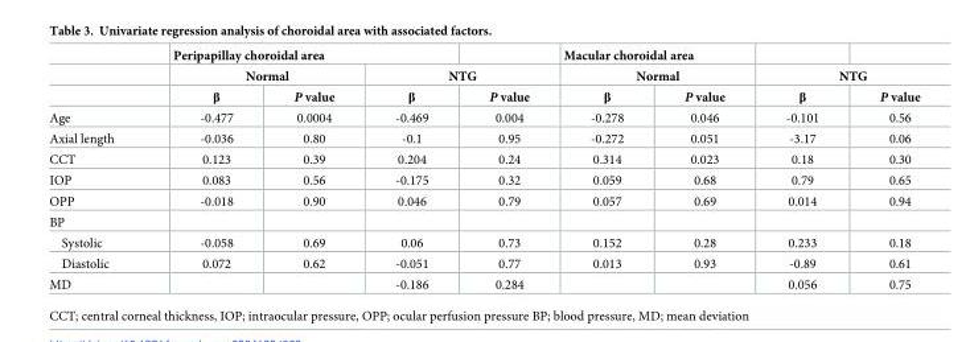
<table><thead><tr><td rowspan="3"></td><td colspan="3">Peripapillay choroidal area</td><td></td><td rowspan="2" colspan="2">Macular choroidal area Normal</td><td></td><td></td></tr><tr><td colspan="2">Normal</td><td colspan="2">NTG</td><td colspan="2">NTG</td></tr><tr><td>β</td><td>P value</td><td>β</td><td>P value</td><td>β</td><td>P value</td><td>β</td><td>P value</td></tr></thead><tbody><tr><td>Age</td><td>-0.477</td><td>0.0004</td><td>-0.469</td><td>0.004</td><td>-0.278</td><td>0.046</td><td>-0.101</td><td>0.56</td></tr><tr><td>Axial length</td><td>-0.036</td><td>0.80</td><td>-0.1</td><td>0.95</td><td>-0.272</td><td>0.051</td><td>-3.17</td><td>0.06</td></tr><tr><td>CCT</td><td>0.123</td><td>0.39</td><td>0.204</td><td>0.24</td><td>0.314</td><td>0.023</td><td>0.18</td><td>0.30</td></tr><tr><td>IOP</td><td>0.083</td><td>0.56</td><td>-0.175</td><td>0.32</td><td>0.059</td><td>0.68</td><td>0.79</td><td>0.65</td></tr><tr><td>OPP</td><td>-0.018</td><td>0.90</td><td>0.046</td><td>0.79</td><td>0.057</td><td>0.69</td><td>0.014</td><td>0.94</td></tr><tr><td colspan="9">BP</td></tr><tr><td>Systolic</td><td>-0.058</td><td>0.69</td><td>0.06</td><td>0.73</td><td>0.152</td><td>0.28</td><td>0.233</td><td>0.18</td></tr><tr><td>Diastolic</td><td>0.072</td><td>0.62</td><td>-0.051</td><td>0.77</td><td>0.013</td><td>0.93</td><td>-0.89</td><td>0.61</td></tr><tr><td>MD</td><td></td><td></td><td>-0.186</td><td>0.284</td><td></td><td></td><td>0.056</td><td>0.75</td></tr></tbody></table>